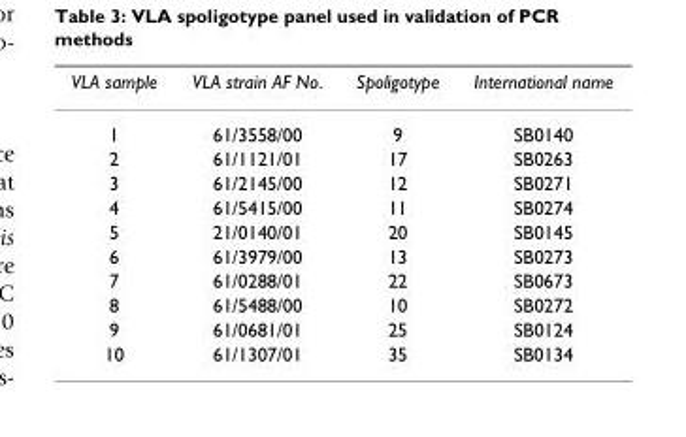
<table><thead><tr><td>VLA sample</td><td>VLA strain AF No.</td><td>Spoligotype</td><td>International name</td></tr></thead><tbody><tr><td>1</td><td>61/3558/00</td><td>9</td><td>SB0140</td></tr><tr><td>2</td><td>61/1121/01</td><td>17</td><td>SB0263</td></tr><tr><td>3</td><td>61/2145/00</td><td>12</td><td>SB0271</td></tr><tr><td>4</td><td>61/5415/00</td><td>11</td><td>SB0274</td></tr><tr><td>5</td><td>21/0140/01</td><td>20</td><td>SB0145</td></tr><tr><td>6</td><td>61/3979/00</td><td>13</td><td>SB0273</td></tr><tr><td>7</td><td>61/0288/01</td><td>22</td><td>SB0673</td></tr><tr><td>8</td><td>61/5488/00</td><td>10</td><td>SB0272</td></tr><tr><td>9</td><td>61/0681/01</td><td>25</td><td>SB0124</td></tr><tr><td>10</td><td>61/1307/01</td><td>35</td><td>SB0134</td></tr></tbody></table>